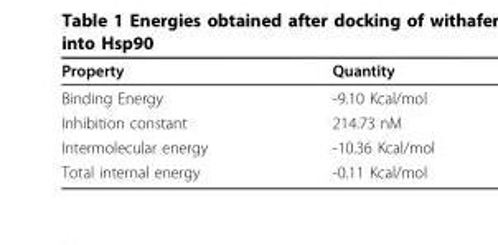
<table><thead><tr><td>Property</td><td>Quantity</td></tr></thead><tbody><tr><td>Binding Energy</td><td>-9.10 Kcal/mol</td></tr><tr><td>Inhibition constant</td><td>214.73 nM</td></tr><tr><td>Intermolecular energy</td><td>-10.36 Kcal/mol</td></tr><tr><td>Total internal energy</td><td>-0.11 Kcal/mol</td></tr></tbody></table>